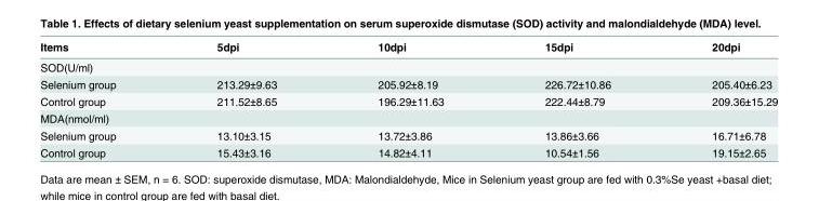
<table><thead><tr><td>Items</td><td>5dpi</td><td>10dpi</td><td>15dpi</td><td>20dpi</td></tr></thead><tbody><tr><td colspan="5">SOD(U/ml)</td></tr><tr><td>Selenium group</td><td>213.29±9.63</td><td>205.92±8.19</td><td>226.72±10.86</td><td>205.40±6.23</td></tr><tr><td>Control group</td><td>211.52±8.65</td><td>196.29±11.63</td><td>222.44±8.79</td><td>209.36±15.29</td></tr><tr><td colspan="5">MDA(nmol/ml)</td></tr><tr><td>Selenium group</td><td>13.10±3.15</td><td>13.72±3.86</td><td>13.86±3.66</td><td>16.71±6.78</td></tr><tr><td>Control group</td><td>15.43±3.16</td><td>14.82±4.11</td><td>10.54±1.56</td><td>19.15±2.65</td></tr></tbody></table>